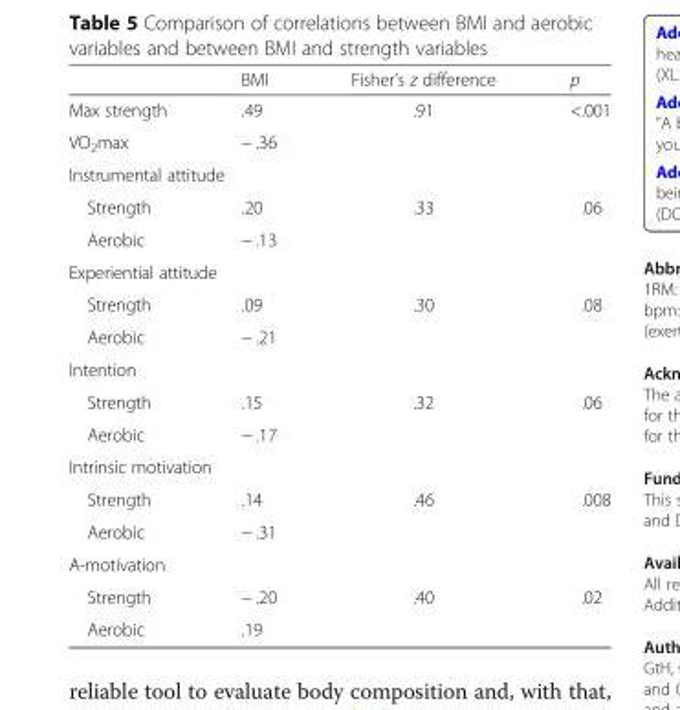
<table><thead><tr><td></td><td>BMI</td><td>Fisher’s z difference</td><td>p</td></tr></thead><tbody><tr><td>Max strength</td><td>.49</td><td rowspan="2">.91</td><td rowspan="2">&lt;.001</td></tr><tr><td>VO<sub>2</sub>max</td><td>− .36</td></tr><tr><td colspan="4">Instrumental attitude</td></tr><tr><td>Strength</td><td>.20</td><td rowspan="2">.33</td><td rowspan="2">.06</td></tr><tr><td>Aerobic</td><td>− .13</td></tr><tr><td colspan="4">Experiential attitude</td></tr><tr><td>Strength</td><td>.09</td><td rowspan="2">.30</td><td rowspan="2">.08</td></tr><tr><td>Aerobic</td><td>− .21</td></tr><tr><td colspan="4">Intention</td></tr><tr><td>Strength</td><td>.15</td><td rowspan="2">.32</td><td rowspan="2">.06</td></tr><tr><td>Aerobic</td><td>− .17</td></tr><tr><td colspan="4">Intrinsic motivation</td></tr><tr><td>Strength</td><td>.14</td><td rowspan="2">.46</td><td rowspan="2">.008</td></tr><tr><td>Aerobic</td><td>− .31</td></tr><tr><td colspan="4">A-motivation</td></tr><tr><td>Strength</td><td>− .20</td><td rowspan="2">.40</td><td rowspan="2">.02</td></tr><tr><td>Aerobic</td><td>.19</td></tr></tbody></table>